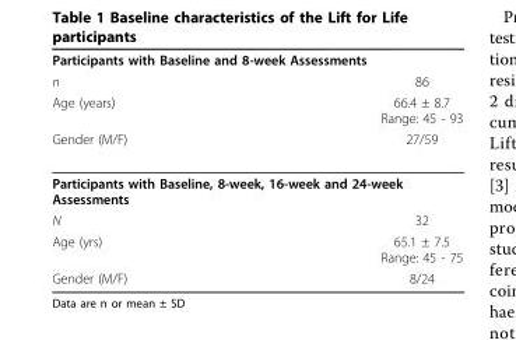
<table><thead><tr><td rowspan="4">Participants with Baseline and 8-week Assessments n Age (years) Gender (M/F)</td><td rowspan="4">86 66.4 ± 8.7 Range: 45 - 93 27/59</td></tr><tr></tr><tr></tr><tr></tr></thead><tbody><tr><td colspan="2">Participants with Baseline, 8-week, 16-week and 24-week Assessments</td></tr><tr><td>N</td><td>32</td></tr><tr><td>Age (yrs)</td><td>65.1 ± 7.5 Range: 45 - 75</td></tr><tr><td>Gender (M/F)</td><td>8/24</td></tr></tbody></table>